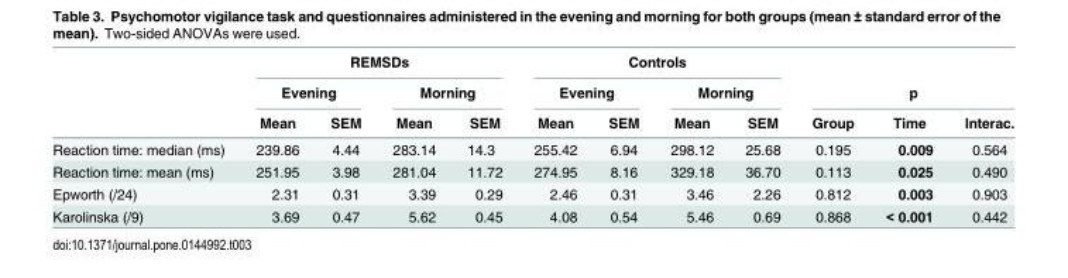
<table><thead><tr><td rowspan="3"></td><td colspan="4">REMSDs</td><td colspan="4">Controls</td><td></td><td></td><td></td></tr><tr><td colspan="2">Evening</td><td colspan="2">Morning</td><td colspan="2">Evening</td><td colspan="2">Morning</td><td colspan="3">p</td></tr><tr><td>Mean</td><td>SEM</td><td>Mean</td><td>SEM</td><td>Mean</td><td>SEM</td><td>Mean</td><td>SEM</td><td>Group</td><td>Time</td><td>Interac.</td></tr></thead><tbody><tr><td>Reaction time: median (ms)</td><td>239.86</td><td>4.44</td><td>283.14</td><td>14.3</td><td>255.42</td><td>6.94</td><td>298.12</td><td>25.68</td><td>0.195</td><td>0.009</td><td>0.564</td></tr><tr><td>Reaction time: mean (ms)</td><td>251.95</td><td>3.98</td><td>281.04</td><td>11.72</td><td>274.95</td><td>8.16</td><td>329.18</td><td>36.70</td><td>0.113</td><td>0.025</td><td>0.490</td></tr><tr><td>Epworth (/24)</td><td>2.31</td><td>0.31</td><td>3.39</td><td>0.29</td><td>2.46</td><td>0.31</td><td>3.46</td><td>2.26</td><td>0.812</td><td>0.003</td><td>0.903</td></tr><tr><td>Karolinska (/9)</td><td>3.69</td><td>0.47</td><td>5.62</td><td>0.45</td><td>4.08</td><td>0.54</td><td>5.46</td><td>0.69</td><td>0.868</td><td>&lt; 0.001</td><td>0.442</td></tr></tbody></table>